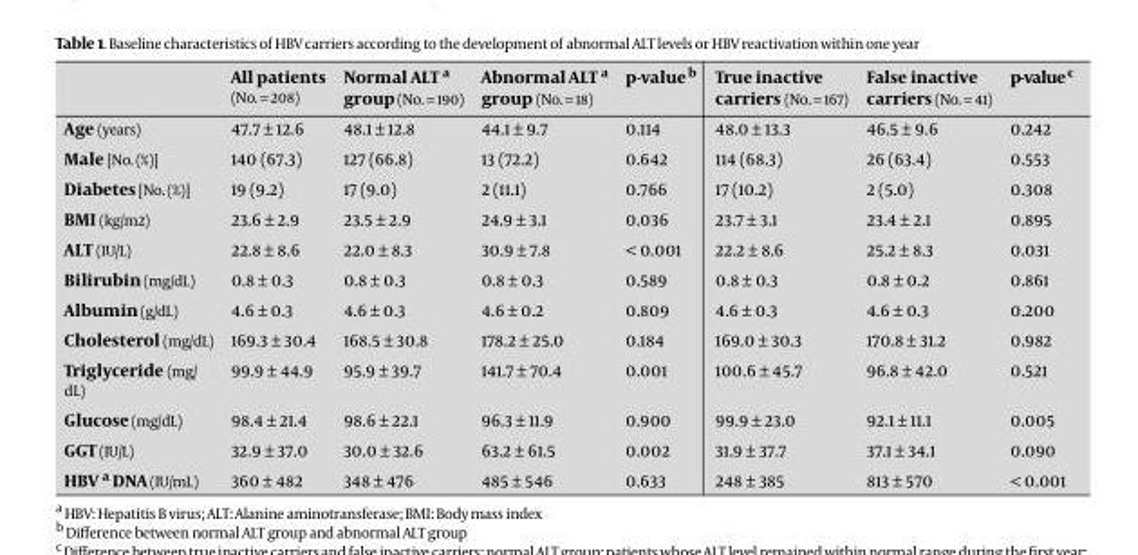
<table><thead><tr><td></td><td>All patients (No. = 208)</td><td>Normal ALT a group (No. = 190)</td><td>Abnormal ALT a group (No. = 18)</td><td>p-value b</td><td>True inactive carriers (No. = 167)</td><td>False inactive carriers (No. = 41)</td><td>p-value c</td></tr></thead><tbody><tr><td>Age (years)</td><td>47.7 ± 12.6</td><td>48.1 ± 12.8</td><td>44.1 ± 9.7</td><td>0.114</td><td>48.0 ± 13.3</td><td>46.5 ± 9.6</td><td>0.242</td></tr><tr><td>Male [No. (%)]</td><td>140 (67.3)</td><td>127 (66.8)</td><td>13 (72.2)</td><td>0.642</td><td>114 (68.3)</td><td>26 (63.4)</td><td>0.553</td></tr><tr><td>Diabetes [No. (%)]</td><td>19 (9.2)</td><td>17 (9.0)</td><td>2 (11.1)</td><td>0.766</td><td>17 (10.2)</td><td>2 (5.0)</td><td>0.308</td></tr><tr><td>BMI (kg/m2)</td><td>23.6 ± 2.9</td><td>23.5 ± 2.9</td><td>24.9 ± 3.1</td><td>0.036</td><td>23.7 ± 3.1</td><td>23.4 ± 2.1</td><td>0.895</td></tr><tr><td>ALT (IU/L)</td><td>22.8 ± 8.6</td><td>22.0 ± 8.3</td><td>30.9 ± 7.8</td><td>&lt; 0.001</td><td>22.2 ± 8.6</td><td>25.2 ± 8.3</td><td>0.031</td></tr><tr><td>Bilirubin (mg/dL)</td><td>0.8 ± 0.3</td><td>0.8 ± 0.3</td><td>0.8 ± 0.3</td><td>0.589</td><td>0.8 ± 0.3</td><td>0.8 ± 0.2</td><td>0.861</td></tr><tr><td>Albumin (g/dL)</td><td>4.6 ± 0.3</td><td>4.6 ± 0.3</td><td>4.6 ± 0.2</td><td>0.809</td><td>4.6 ± 0.3</td><td>4.6 ± 0.3</td><td>0.200</td></tr><tr><td>Cholesterol (mg/dL)</td><td>169.3 ± 30.4</td><td>168.5 ± 30.8</td><td>178.2 ± 25.0</td><td>0.184</td><td>169.0 ± 30.3</td><td>170.8 ± 31.2</td><td>0.982</td></tr><tr><td>Triglyceride (mg/ dL)</td><td>99.9 ± 44.9</td><td>95.9 ± 39.7</td><td>141.7 ± 70.4</td><td>0.001</td><td>100.6 ± 45.7</td><td>96.8 ± 42.0</td><td>0.521</td></tr><tr><td>Glucose (mg/dL)</td><td>98.4 ± 21.4</td><td>98.6 ± 22.1</td><td>96.3 ± 11.9</td><td>0.900</td><td>99.9 ± 23.0</td><td>92.1 ± 11.1</td><td>0.005</td></tr><tr><td>GGT (IU/L)</td><td>32.9 ± 37.0</td><td>30.0 ± 32.6</td><td>63.2 ± 61.5</td><td>0.002</td><td>31.9 ± 37.7</td><td>37.1 ± 34.1</td><td>0.090</td></tr><tr><td>HBV a DNA (IU/mL)</td><td>360 ± 482</td><td>348 ± 476</td><td>485 ± 546</td><td>0.633</td><td>248 ± 385</td><td>813 ± 570</td><td>&lt; 0.001</td></tr></tbody></table>